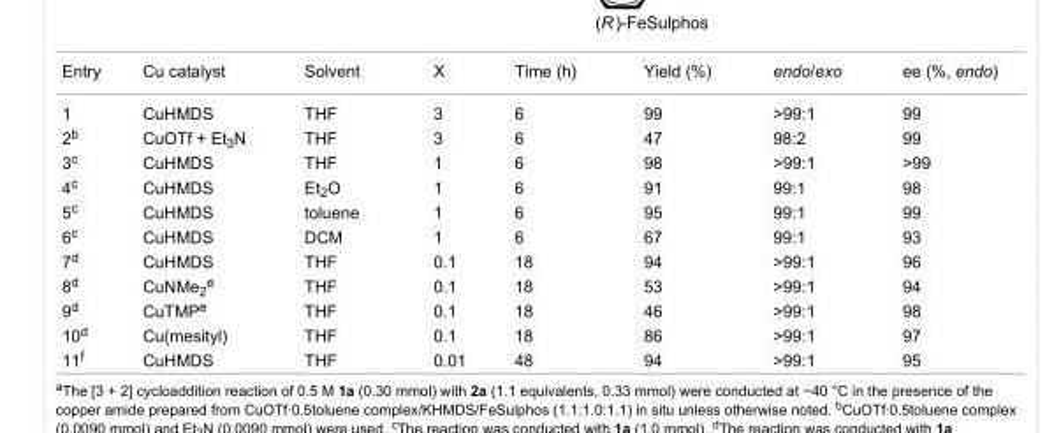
<table><tbody><tr><td>Entry</td><td>Cu catalyst</td><td>Solvent</td><td>X</td><td>Time (h)</td><td>Yield (%)</td><td>endo/exo</td><td>ee (%, endo)</td></tr><tr><td>1</td><td>CuHMDS</td><td>THF</td><td>3</td><td>6</td><td>99</td><td>&gt;99:1</td><td>99</td></tr><tr><td>2<sup>b</sup></td><td>CuOTf + Et<sub>3</sub>N</td><td>THF</td><td>3</td><td>6</td><td>47</td><td>98:2</td><td>99</td></tr><tr><td>3<sup>c</sup></td><td>CuHMDS</td><td>THF</td><td>1</td><td>6</td><td>98</td><td>&gt;99:1</td><td>&gt;99</td></tr><tr><td>4<sup>c</sup></td><td>CuHMDS</td><td>Et<sub>2</sub>O</td><td>1</td><td>6</td><td>91</td><td>99:1</td><td>98</td></tr><tr><td>5<sup>c</sup></td><td>CuHMDS</td><td>toluene</td><td>1</td><td>6</td><td>95</td><td>99:1</td><td>99</td></tr><tr><td>6<sup>c</sup></td><td>CuHMDS</td><td>DCM</td><td>1</td><td>6</td><td>67</td><td>99:1</td><td>93</td></tr><tr><td>7<sup>d</sup></td><td>CuHMDS</td><td>THF</td><td>0.1</td><td>18</td><td>94</td><td>&gt;99:1</td><td>96</td></tr><tr><td>8<sup>d</sup></td><td>CuNMe<sub>2</sub><sup>e</sup></td><td>THF</td><td>0.1</td><td>18</td><td>53</td><td>&gt;99:1</td><td>94</td></tr><tr><td>9<sup>d</sup></td><td>CuTMP<sup>e</sup></td><td>THF</td><td>0.1</td><td>18</td><td>46</td><td>&gt;99:1</td><td>98</td></tr><tr><td>10<sup>d</sup></td><td>Cu(mesityl)</td><td>THF</td><td>0.1</td><td>18</td><td>86</td><td>&gt;99:1</td><td>97</td></tr><tr><td>11<sup>f</sup></td><td>CuHMDS</td><td>THF</td><td>0.01</td><td>48</td><td>94</td><td>&gt;99:1</td><td>95</td></tr></tbody></table>